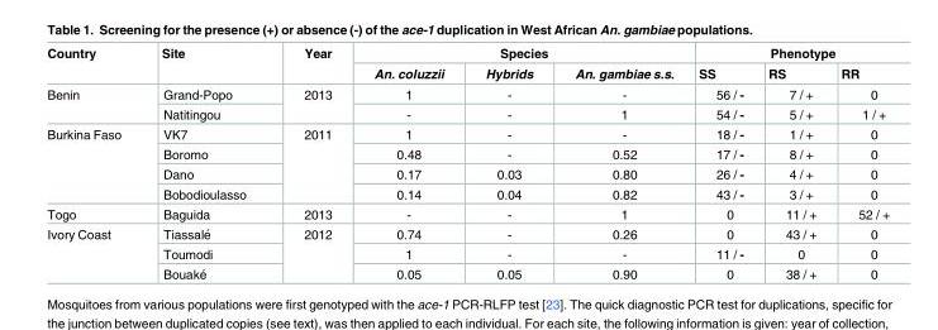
<table><thead><tr><td rowspan="2">Country</td><td rowspan="2">Site</td><td rowspan="2">Year</td><td colspan="3">Species</td><td colspan="3">Phenotype</td></tr><tr><td>An. coluzzii</td><td>Hybrids</td><td>An. gambiae s.s.</td><td>SS</td><td>RS</td><td>RR</td></tr></thead><tbody><tr><td rowspan="2">Benin</td><td>Grand-Popo</td><td rowspan="2">2013</td><td>1</td><td>-</td><td>-</td><td>56 / -</td><td>7 / +</td><td>0</td></tr><tr><td>Natitingou</td><td>-</td><td>-</td><td>1</td><td>54 / -</td><td>5 / +</td><td>1 / +</td></tr><tr><td rowspan="4">Burkina Faso</td><td>VK7</td><td rowspan="4">2011</td><td>1</td><td>-</td><td>-</td><td>18 / -</td><td>1 / +</td><td>0</td></tr><tr><td>Boromo</td><td>0.48</td><td>-</td><td>0.52</td><td>17 / -</td><td>8 / +</td><td>0</td></tr><tr><td>Dano</td><td>0.17</td><td>0.03</td><td>0.80</td><td>26 / -</td><td>4 / +</td><td>0</td></tr><tr><td>Bobodioulasso</td><td>0.14</td><td>0.04</td><td>0.82</td><td>43 / -</td><td>3 / +</td><td>0</td></tr><tr><td>Togo</td><td>Baguida</td><td>2013</td><td>-</td><td>-</td><td>1</td><td>0</td><td>11 / +</td><td>52 / +</td></tr><tr><td rowspan="3">Ivory Coast</td><td>Tiassale´</td><td rowspan="3">2012</td><td>0.74</td><td>-</td><td>0.26</td><td>0</td><td>43 / +</td><td>0</td></tr><tr><td>Toumodi</td><td>1</td><td>-</td><td>-</td><td>11 / -</td><td>0</td><td>0</td></tr><tr><td>Bouake´</td><td>0.05</td><td>0.05</td><td>0.90</td><td>0</td><td>38 / +</td><td>0</td></tr></tbody></table>